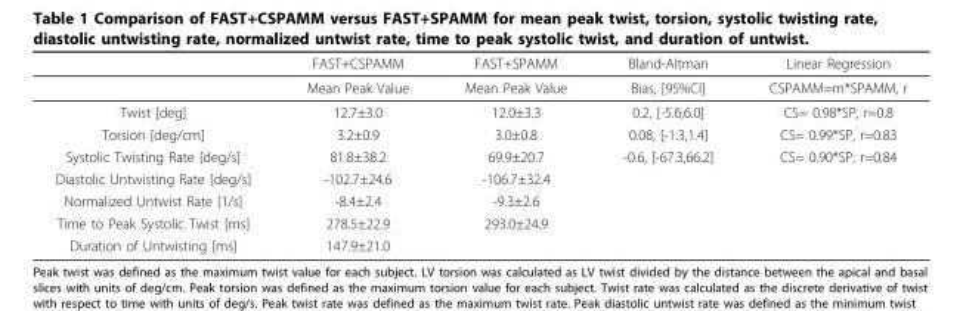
<table><thead><tr><td></td><td>FAST+CSPAMM</td><td>FAST+SPAMM</td><td>Bland-Altman</td><td>Linear Regression</td></tr></thead><tbody><tr><td></td><td>Mean Peak Value</td><td>Mean Peak Value</td><td>Bias, [95%CI]</td><td>CSPAMM=m*SPAMM, r</td></tr><tr><td>Twist [deg]</td><td>12.7±3.0</td><td>12.0±3.3</td><td>0.2, [-5.6,6.0]</td><td>CS= 0.98*SP, r=0.8</td></tr><tr><td>Torsion [deg/cm]</td><td>3.2±0.9</td><td>3.0±0.8</td><td>0.08, [-1.3,1.4]</td><td>CS= 0.99*SP, r=0.83</td></tr><tr><td>Systolic Twisting Rate [deg/s]</td><td>81.8±38.2</td><td>69.9±20.7</td><td>-0.6, [-67.3,66.2]</td><td>CS= 0.90*SP, r=0.84</td></tr><tr><td>Diastolic Untwisting Rate [deg/s]</td><td>-102.7±24.6</td><td>-106.7±32.4</td><td></td><td></td></tr><tr><td>Normalized Untwist Rate [1/s]</td><td>-8.4±2.4</td><td>-9.3±2.6</td><td></td><td></td></tr><tr><td>Time to Peak Systolic Twist [ms]</td><td>278.5±22.9</td><td>293.0±24.9</td><td></td><td></td></tr><tr><td>Duration of Untwisting [ms]</td><td>147.9±21.0</td><td></td><td></td><td></td></tr></tbody></table>